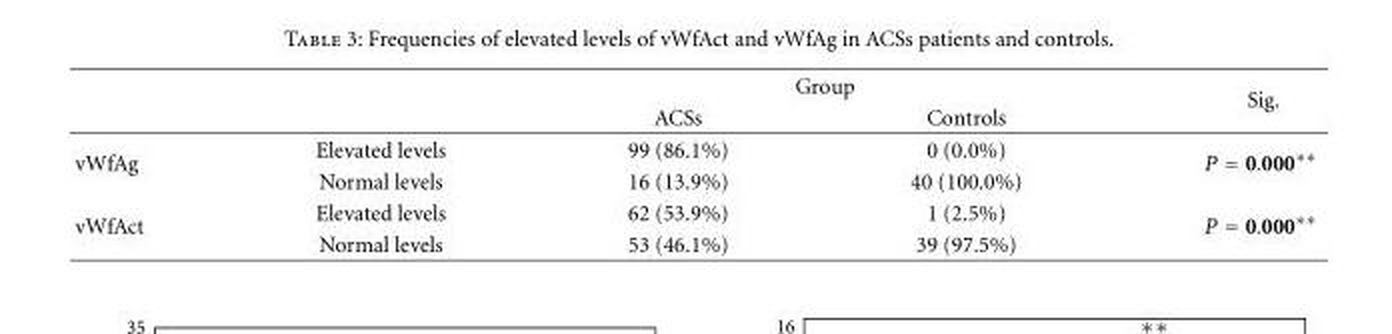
<table><thead><tr><td rowspan="2"></td><td rowspan="2"></td><td colspan="2">Group</td><td rowspan="2">Sig.</td></tr><tr><td>ACSs</td><td>Controls</td></tr></thead><tbody><tr><td rowspan="2">vWfAg</td><td>Elevated levels</td><td>99 (86.1%)</td><td>0 (0.0%)</td><td rowspan="2">P = 0.000∗∗</td></tr><tr><td>Normal levels</td><td>16 (13.9%)</td><td>40 (100.0%)</td></tr><tr><td rowspan="2">vWfAct</td><td>Elevated levels</td><td>62 (53.9%)</td><td>1 (2.5%)</td><td rowspan="2">P = 0.000∗∗</td></tr><tr><td>Normal levels</td><td>53 (46.1%)</td><td>39 (97.5%)</td></tr></tbody></table>